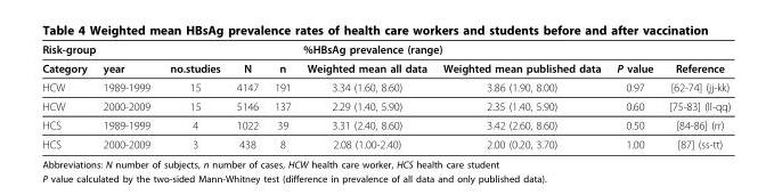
<table><thead><tr><td colspan="2">Risk-group</td><td rowspan="2">no.studies</td><td rowspan="2">N</td><td rowspan="2">n</td><td colspan="2">%HBsAg prevalence (range)</td><td rowspan="2">P value</td><td rowspan="2">Reference</td></tr><tr><td>Category</td><td>year</td><td>Weighted mean all data</td><td>Weighted mean published data</td></tr></thead><tbody><tr><td>HCW</td><td>1989-1999</td><td>15</td><td>4147</td><td>191</td><td>3.34 (1.60, 8.60)</td><td>3.86 (1.90, 8.00)</td><td>0.97</td><td>[62-74] (jj-kk)</td></tr><tr><td>HCW</td><td>2000-2009</td><td>15</td><td>5146</td><td>137</td><td>2.29 (1.40, 5.90)</td><td>2.35 (1.40, 5.90)</td><td>0.60</td><td>[75-83] (ll-qq)</td></tr><tr><td>HCS</td><td>1989-1999</td><td>4</td><td>1022</td><td>39</td><td>3.31 (2.40, 8.60)</td><td>3.42 (2.60, 8.60)</td><td>0.50</td><td>[84-86] (rr)</td></tr><tr><td>HCS</td><td>2000-2009</td><td>3</td><td>438</td><td>8</td><td>2.08 (1.00-2.40)</td><td>2.00 (0.20, 3.70)</td><td>1.00</td><td>[87] (ss-tt)</td></tr></tbody></table>